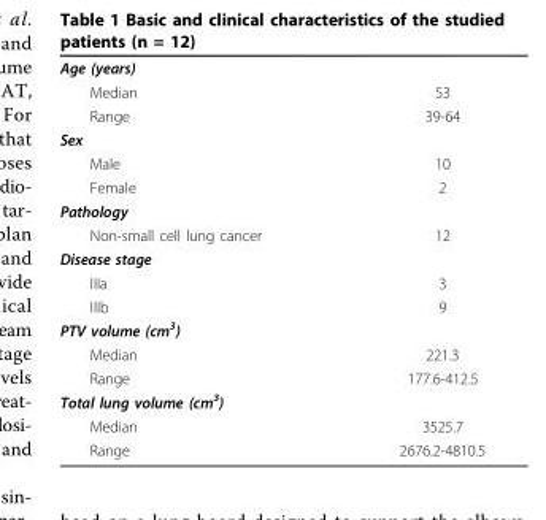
<table><tbody><tr><td colspan="2">Age (years)</td></tr><tr><td>Median</td><td>53</td></tr><tr><td>Range</td><td>39-64</td></tr><tr><td colspan="2">Sex</td></tr><tr><td>Male</td><td>10</td></tr><tr><td>Female</td><td>2</td></tr><tr><td colspan="2">Pathology</td></tr><tr><td>Non-small cell lung cancer</td><td>12</td></tr><tr><td colspan="2">Disease stage</td></tr><tr><td>IIIa</td><td>3</td></tr><tr><td>IIIb</td><td>9</td></tr><tr><td colspan="2">PTV volume (cm<sup>3</sup>)</td></tr><tr><td>Median</td><td>221.3</td></tr><tr><td>Range</td><td>177.6-412.5</td></tr><tr><td colspan="2">Total lung volume (cm<sup>3</sup>)</td></tr><tr><td>Median</td><td>3525.7</td></tr><tr><td>Range</td><td>2676.2-4810.5</td></tr></tbody></table>